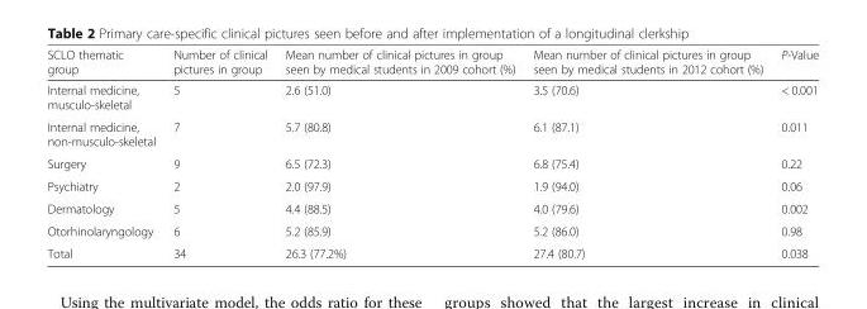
<table><thead><tr><td>SCLO thematic group</td><td>Number of clinical pictures in group</td><td>Mean number of clinical pictures in group seen by medical students in 2009 cohort (%)</td><td>Mean number of clinical pictures in group seen by medical students in 2012 cohort (%)</td><td>P-Value</td></tr></thead><tbody><tr><td>Internal medicine, musculo-skeletal</td><td>5</td><td>2.6 (51.0)</td><td>3.5 (70.6)</td><td>&lt; 0.001</td></tr><tr><td>Internal medicine, non-musculo-skeletal</td><td>7</td><td>5.7 (80.8)</td><td>6.1 (87.1)</td><td>0.011</td></tr><tr><td>Surgery</td><td>9</td><td>6.5 (72.3)</td><td>6.8 (75.4)</td><td>0.22</td></tr><tr><td>Psychiatry</td><td>2</td><td>2.0 (97.9)</td><td>1.9 (94.0)</td><td>0.06</td></tr><tr><td>Dermatology</td><td>5</td><td>4.4 (88.5)</td><td>4.0 (79.6)</td><td>0.002</td></tr><tr><td>Otorhinolaryngology</td><td>6</td><td>5.2 (85.9)</td><td>5.2 (86.0)</td><td>0.98</td></tr><tr><td>Total</td><td>34</td><td>26.3 (77.2%)</td><td>27.4 (80.7)</td><td>0.038</td></tr></tbody></table>